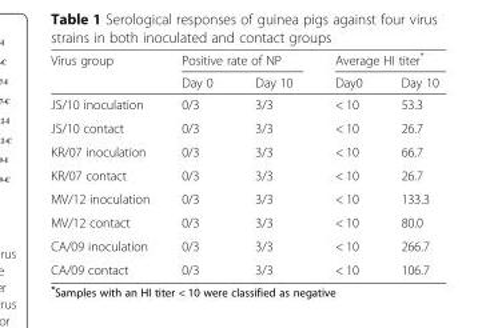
<table><thead><tr><td rowspan="2">Virus group</td><td colspan="2">Positive rate of NP</td><td colspan="2">Average HI titer*</td></tr><tr><td>Day 0</td><td>Day 10</td><td>Day0</td><td>Day 10</td></tr></thead><tbody><tr><td>JS/10 inoculation</td><td>0/3</td><td>3/3</td><td>&lt; 10</td><td>53.3</td></tr><tr><td>JS/10 contact</td><td>0/3</td><td>3/3</td><td>&lt; 10</td><td>26.7</td></tr><tr><td>KR/07 inoculation</td><td>0/3</td><td>3/3</td><td>&lt; 10</td><td>66.7</td></tr><tr><td>KR/07 contact</td><td>0/3</td><td>3/3</td><td>&lt; 10</td><td>26.7</td></tr><tr><td>MV/12 inoculation</td><td>0/3</td><td>3/3</td><td>&lt; 10</td><td>133.3</td></tr><tr><td>MV/12 contact</td><td>0/3</td><td>3/3</td><td>&lt; 10</td><td>80.0</td></tr><tr><td>CA/09 inoculation</td><td>0/3</td><td>3/3</td><td>&lt; 10</td><td>266.7</td></tr><tr><td>CA/09 contact</td><td>0/3</td><td>3/3</td><td>&lt; 10</td><td>106.7</td></tr></tbody></table>